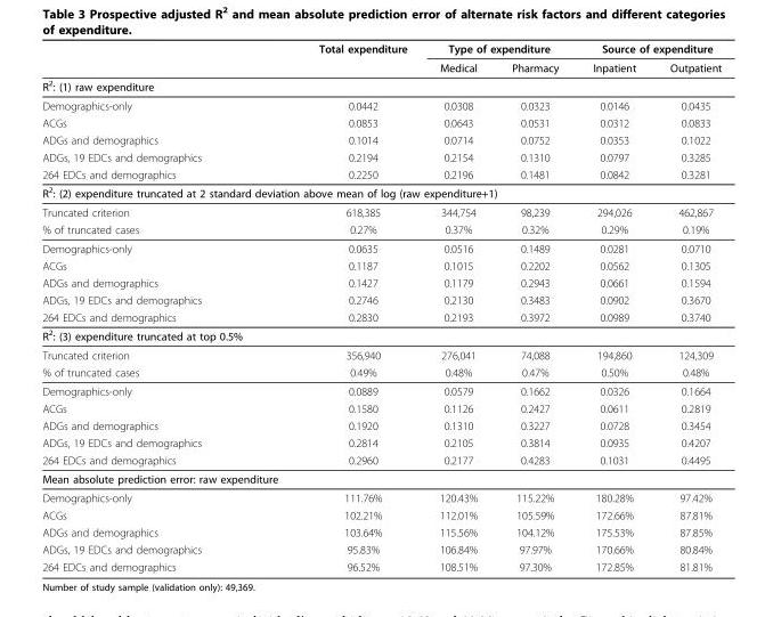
<table><thead><tr><td rowspan="2"></td><td rowspan="2">Total expenditure</td><td colspan="2">Type of expenditure</td><td colspan="2">Source of expenditure</td></tr><tr><td>Medical</td><td>Pharmacy</td><td>Inpatient</td><td>Outpatient</td></tr></thead><tbody><tr><td colspan="6">R<sup>2</sup>: (1) raw expenditure</td></tr><tr><td>Demographics-only</td><td>0.0442</td><td>0.0308</td><td>0.0323</td><td>0.0146</td><td>0.0435</td></tr><tr><td>ACGs</td><td>0.0853</td><td>0.0643</td><td>0.0531</td><td>0.0312</td><td>0.0833</td></tr><tr><td>ADGs and demographics</td><td>0.1014</td><td>0.0714</td><td>0.0752</td><td>0.0353</td><td>0.1022</td></tr><tr><td>ADGs, 19 EDCs and demographics</td><td>0.2194</td><td>0.2154</td><td>0.1310</td><td>0.0797</td><td>0.3285</td></tr><tr><td>264 EDCs and demographics</td><td>0.2250</td><td>0.2196</td><td>0.1481</td><td>0.0842</td><td>0.3281</td></tr><tr><td colspan="6">R<sup>2</sup>: (2) expenditure truncated at 2 standard deviation above mean of log (raw expenditure+1)</td></tr><tr><td>Truncated criterion</td><td>618,385</td><td>344,754</td><td>98,239</td><td>294,026</td><td>462,867</td></tr><tr><td>% of truncated cases</td><td>0.27%</td><td>0.37%</td><td>0.32%</td><td>0.29%</td><td>0.19%</td></tr><tr><td>Demographics-only</td><td>0.0635</td><td>0.0516</td><td>0.1489</td><td>0.0281</td><td>0.0710</td></tr><tr><td>ACGs</td><td>0.1187</td><td>0.1015</td><td>0.2202</td><td>0.0562</td><td>0.1305</td></tr><tr><td>ADGs and demographics</td><td>0.1427</td><td>0.1179</td><td>0.2943</td><td>0.0661</td><td>0.1594</td></tr><tr><td>ADGs, 19 EDCs and demographics</td><td>0.2746</td><td>0.2130</td><td>0.3483</td><td>0.0902</td><td>0.3670</td></tr><tr><td>264 EDCs and demographics</td><td>0.2830</td><td>0.2193</td><td>0.3972</td><td>0.0989</td><td>0.3740</td></tr><tr><td colspan="6">R<sup>2</sup>: (3) expenditure truncated at top 0.5%</td></tr><tr><td>Truncated criterion</td><td>356,940</td><td>276,041</td><td>74,088</td><td>194,860</td><td>124,309</td></tr><tr><td>% of truncated cases</td><td>0.49%</td><td>0.48%</td><td>0.47%</td><td>0.50%</td><td>0.48%</td></tr><tr><td>Demographics-only</td><td>0.0889</td><td>0.0579</td><td>0.1662</td><td>0.0326</td><td>0.1664</td></tr><tr><td>ACGs</td><td>0.1580</td><td>0.1126</td><td>0.2427</td><td>0.0611</td><td>0.2819</td></tr><tr><td>ADGs and demographics</td><td>0.1920</td><td>0.1310</td><td>0.3227</td><td>0.0728</td><td>0.3454</td></tr><tr><td>ADGs, 19 EDCs and demographics</td><td>0.2814</td><td>0.2105</td><td>0.3814</td><td>0.0935</td><td>0.4207</td></tr><tr><td>264 EDCs and demographics</td><td>0.2960</td><td>0.2177</td><td>0.4283</td><td>0.1031</td><td>0.4495</td></tr><tr><td colspan="6">Mean absolute prediction error: raw expenditure</td></tr><tr><td>Demographics-only</td><td>111.76%</td><td>120.43%</td><td>115.22%</td><td>180.28%</td><td>97.42%</td></tr><tr><td>ACGs</td><td>102.21%</td><td>112.01%</td><td>105.59%</td><td>172.66%</td><td>87.81%</td></tr><tr><td>ADGs and demographics</td><td>103.64%</td><td>115.56%</td><td>104.12%</td><td>175.53%</td><td>87.85%</td></tr><tr><td>ADGs, 19 EDCs and demographics</td><td>95.83%</td><td>106.84%</td><td>97.97%</td><td>170.66%</td><td>80.84%</td></tr><tr><td>264 EDCs and demographics</td><td>96.52%</td><td>108.51%</td><td>97.30%</td><td>172.85%</td><td>81.81%</td></tr></tbody></table>